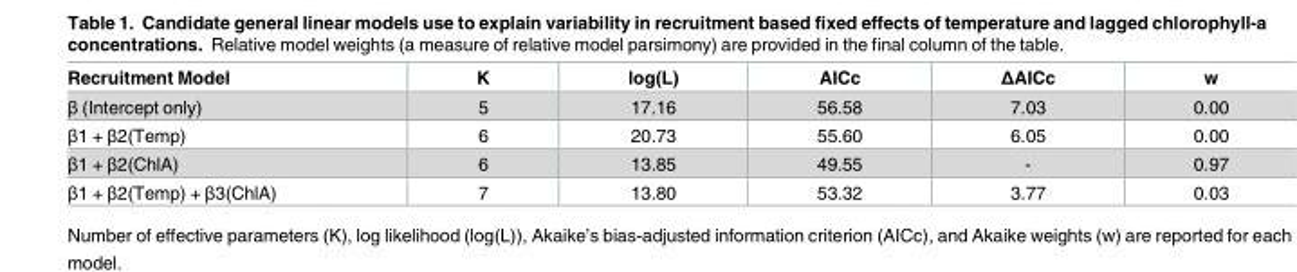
<table><thead><tr><td>Recruitment Model</td><td>K</td><td>log(L)</td><td>AICc</td><td>ΔAICc</td><td>w</td></tr></thead><tbody><tr><td>β (Intercept only)</td><td>5</td><td>17.16</td><td>56.58</td><td>7.03</td><td>0.00</td></tr><tr><td>β1 + β2(Temp)</td><td>6</td><td>20.73</td><td>55.60</td><td>6.05</td><td>0.00</td></tr><tr><td>β1 + β2(ChlA)</td><td>6</td><td>13.85</td><td>49.55</td><td>-</td><td>0.97</td></tr><tr><td>β1 + β2(Temp) + β3(ChlA)</td><td>7</td><td>13.80</td><td>53.32</td><td>3.77</td><td>0.03</td></tr></tbody></table>